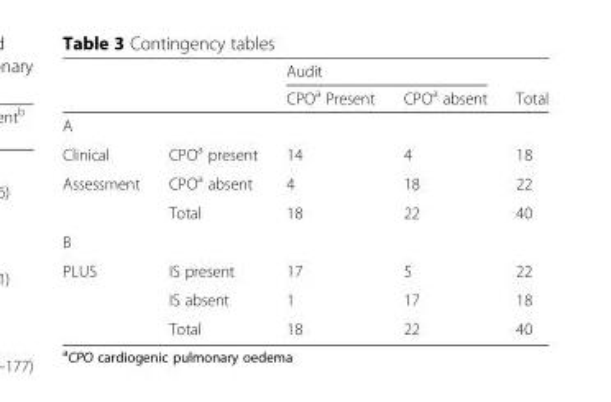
<table><thead><tr><td rowspan="2"></td><td rowspan="2"></td><td colspan="2">Audit</td><td rowspan="2">Total</td></tr><tr><td>CPOa Present</td><td>CPO<sup>a</sup> absent</td></tr></thead><tbody><tr><td colspan="5">A</td></tr><tr><td>Clinical</td><td>CPO<sup>a</sup> present</td><td>14</td><td>4</td><td>18</td></tr><tr><td rowspan="2">Assessment</td><td>CPO<sup>a</sup> absent</td><td>4</td><td>18</td><td>22</td></tr><tr><td>Total</td><td>18</td><td>22</td><td>40</td></tr><tr><td colspan="5">B</td></tr><tr><td rowspan="3">PLUS</td><td>IS present</td><td>17</td><td>5</td><td>22</td></tr><tr><td>IS absent</td><td>1</td><td>17</td><td>18</td></tr><tr><td>Total</td><td>18</td><td>22</td><td>40</td></tr></tbody></table>